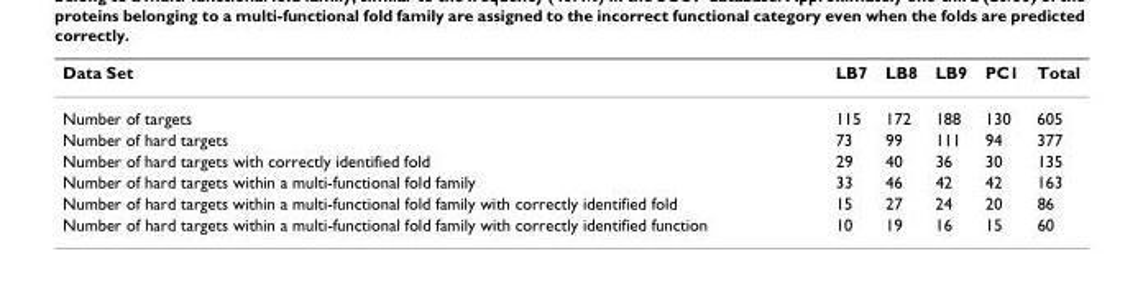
<table><thead><tr><td>Data Set</td><td>LB7</td><td>LB8</td><td>LB9</td><td>PC1</td><td>Total</td></tr></thead><tbody><tr><td>Number of targets</td><td>115</td><td>172</td><td>188</td><td>130</td><td>605</td></tr><tr><td>Number of hard targets</td><td>73</td><td>99</td><td>111</td><td>94</td><td>377</td></tr><tr><td>Number of hard targets with correctly identified fold</td><td>29</td><td>40</td><td>36</td><td>30</td><td>135</td></tr><tr><td>Number of hard targets within a multi-functional fold family</td><td>33</td><td>46</td><td>42</td><td>42</td><td>163</td></tr><tr><td>Number of hard targets within a multi-functional fold family with correctly identified fold</td><td>15</td><td>27</td><td>24</td><td>20</td><td>86</td></tr><tr><td>Number of hard targets within a multi-functional fold family with correctly identified function</td><td>10</td><td>19</td><td>16</td><td>15</td><td>60</td></tr></tbody></table>